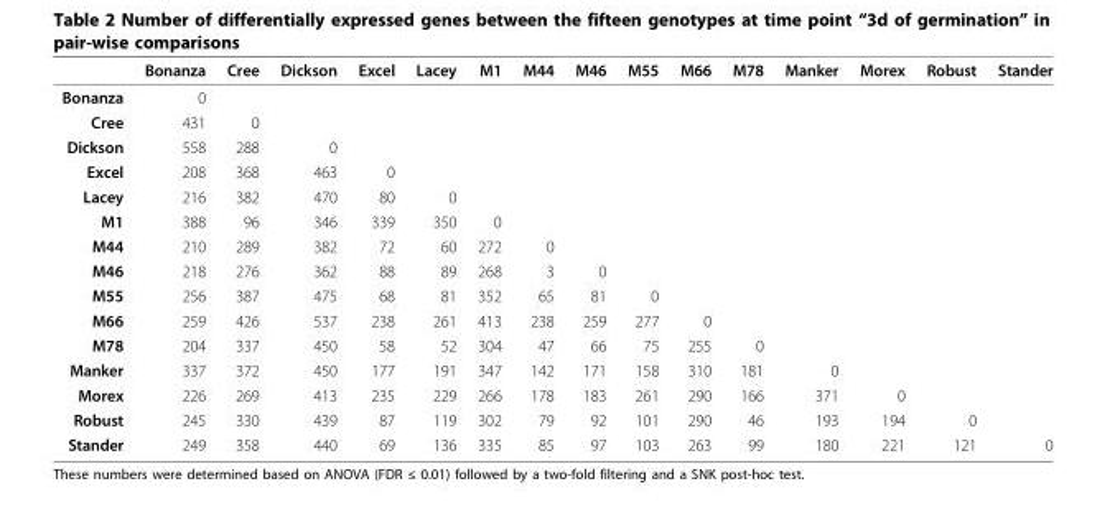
<table><thead><tr><td></td><td>Bonanza</td><td>Cree</td><td>Dickson</td><td>Excel</td><td>Lacey</td><td>M1</td><td>M44</td><td>M46</td><td>M55</td><td>M66</td><td>M78</td><td>Manker</td><td>Morex</td><td>Robust</td><td>Stander</td></tr></thead><tbody><tr><td>Bonanza</td><td>0</td><td></td><td></td><td></td><td></td><td></td><td></td><td></td><td></td><td></td><td></td><td></td><td></td><td></td><td></td></tr><tr><td>Cree</td><td>431</td><td>0</td><td></td><td></td><td></td><td></td><td></td><td></td><td></td><td></td><td></td><td></td><td></td><td></td><td></td></tr><tr><td>Dickson</td><td>558</td><td>288</td><td>0</td><td></td><td></td><td></td><td></td><td></td><td></td><td></td><td></td><td></td><td></td><td></td><td></td></tr><tr><td>Excel</td><td>208</td><td>368</td><td>463</td><td>0</td><td></td><td></td><td></td><td></td><td></td><td></td><td></td><td></td><td></td><td></td><td></td></tr><tr><td>Lacey</td><td>216</td><td>382</td><td>470</td><td>80</td><td>0</td><td></td><td></td><td></td><td></td><td></td><td></td><td></td><td></td><td></td><td></td></tr><tr><td>M1</td><td>388</td><td>96</td><td>346</td><td>339</td><td>350</td><td>0</td><td></td><td></td><td></td><td></td><td></td><td></td><td></td><td></td><td></td></tr><tr><td>M44</td><td>210</td><td>289</td><td>382</td><td>72</td><td>60</td><td>272</td><td>0</td><td></td><td></td><td></td><td></td><td></td><td></td><td></td><td></td></tr><tr><td>M46</td><td>218</td><td>276</td><td>362</td><td>88</td><td>89</td><td>268</td><td>3</td><td>0</td><td></td><td></td><td></td><td></td><td></td><td></td><td></td></tr><tr><td>M55</td><td>256</td><td>387</td><td>475</td><td>68</td><td>81</td><td>352</td><td>65</td><td>81</td><td>0</td><td></td><td></td><td></td><td></td><td></td><td></td></tr><tr><td>M66</td><td>259</td><td>426</td><td>537</td><td>238</td><td>261</td><td>413</td><td>238</td><td>259</td><td>277</td><td>0</td><td></td><td></td><td></td><td></td><td></td></tr><tr><td>M78</td><td>204</td><td>337</td><td>450</td><td>58</td><td>52</td><td>304</td><td>47</td><td>66</td><td>75</td><td>255</td><td>0</td><td></td><td></td><td></td><td></td></tr><tr><td>Manker</td><td>337</td><td>372</td><td>450</td><td>177</td><td>191</td><td>347</td><td>142</td><td>171</td><td>158</td><td>310</td><td>181</td><td>0</td><td></td><td></td><td></td></tr><tr><td>Morex</td><td>226</td><td>269</td><td>413</td><td>235</td><td>229</td><td>266</td><td>178</td><td>183</td><td>261</td><td>290</td><td>166</td><td>371</td><td>0</td><td></td><td></td></tr><tr><td>Robust</td><td>245</td><td>330</td><td>439</td><td>87</td><td>119</td><td>302</td><td>79</td><td>92</td><td>101</td><td>290</td><td>46</td><td>193</td><td>194</td><td>0</td><td></td></tr><tr><td>Stander</td><td>249</td><td>358</td><td>440</td><td>69</td><td>136</td><td>335</td><td>85</td><td>97</td><td>103</td><td>263</td><td>99</td><td>180</td><td>221</td><td>121</td><td>0</td></tr></tbody></table>